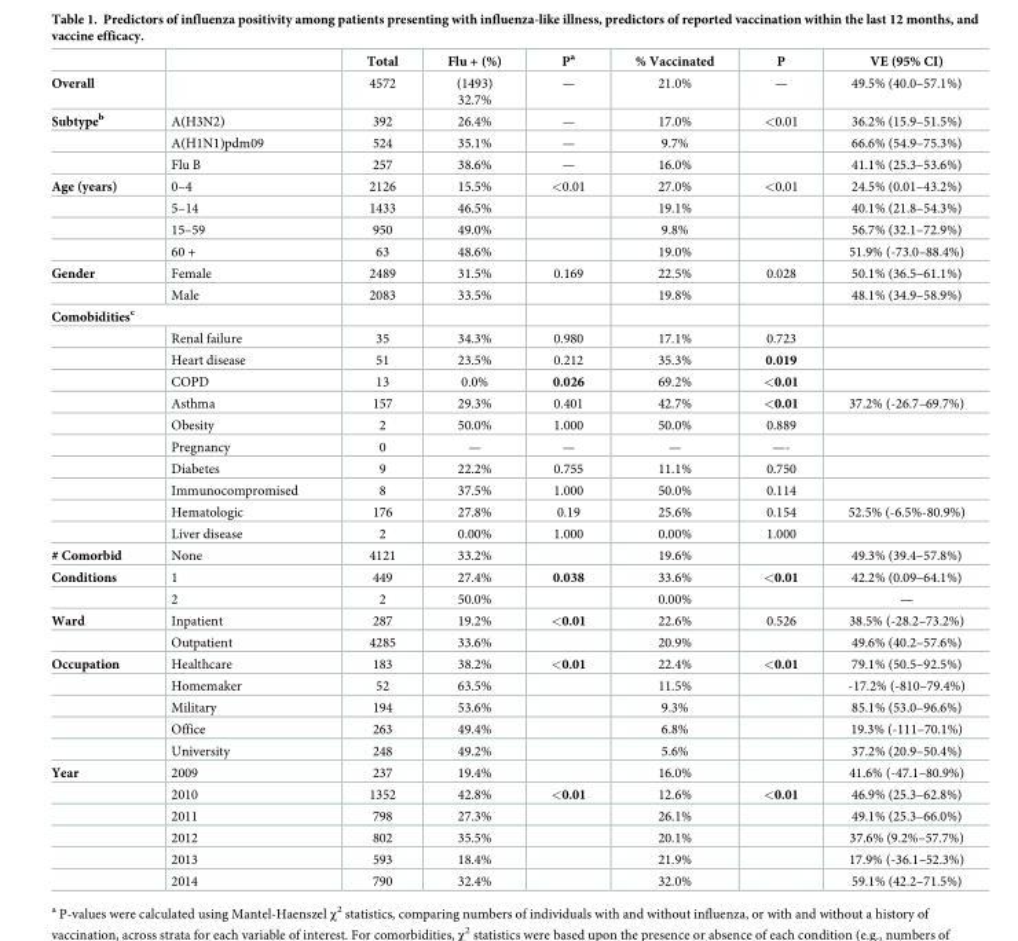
<table><thead><tr><td></td><td></td><td>Total</td><td>Flu + (%)</td><td>P<sup>a</sup></td><td>% Vaccinated</td><td>P</td><td>VE (95% CI)</td></tr></thead><tbody><tr><td>Overall</td><td></td><td>4572</td><td>(1493) 32.7%</td><td>—</td><td>21.0%</td><td>—</td><td>49.5% (40.0–57.1%)</td></tr><tr><td rowspan="3">Subtype<sup>b</sup></td><td>A(H3N2)</td><td>392</td><td>26.4%</td><td>—</td><td>17.0%</td><td>&lt;0.01</td><td>36.2% (15.9–51.5%)</td></tr><tr><td>A(H1N1)pdm09</td><td>524</td><td>35.1%</td><td>—</td><td>9.7%</td><td></td><td>66.6% (54.9–75.3%)</td></tr><tr><td>Flu B</td><td>257</td><td>38.6%</td><td>—</td><td>16.0%</td><td></td><td>41.1% (25.3–53.6%)</td></tr><tr><td rowspan="4">Age (years)</td><td>0–4</td><td>2126</td><td>15.5%</td><td>&lt;0.01</td><td>27.0%</td><td>&lt;0.01</td><td>24.5% (0.01–43.2%)</td></tr><tr><td>5–14</td><td>1433</td><td>46.5%</td><td></td><td>19.1%</td><td></td><td>40.1% (21.8–54.3%)</td></tr><tr><td>15–59</td><td>950</td><td>49.0%</td><td></td><td>9.8%</td><td></td><td>56.7% (32.1–72.9%)</td></tr><tr><td>60 +</td><td>63</td><td>48.6%</td><td></td><td>19.0%</td><td></td><td>51.9% (-73.0–88.4%)</td></tr><tr><td rowspan="2">Gender</td><td>Female</td><td>2489</td><td>31.5%</td><td>0.169</td><td>22.5%</td><td>0.028</td><td>50.1% (36.5–61.1%)</td></tr><tr><td>Male</td><td>2083</td><td>33.5%</td><td></td><td>19.8%</td><td></td><td>48.1% (34.9–58.9%)</td></tr><tr><td colspan="8">Comobidities<sup>c</sup></td></tr><tr><td></td><td>Renal failure</td><td>35</td><td>34.3%</td><td>0.980</td><td>17.1%</td><td>0.723</td><td></td></tr><tr><td></td><td>Heart disease</td><td>51</td><td>23.5%</td><td>0.212</td><td>35.3%</td><td>0.019</td><td></td></tr><tr><td></td><td>COPD</td><td>13</td><td>0.0%</td><td>0.026</td><td>69.2%</td><td>&lt;0.01</td><td></td></tr><tr><td></td><td>Asthma</td><td>157</td><td>29.3%</td><td>0.401</td><td>42.7%</td><td>&lt;0.01</td><td>37.2% (-26.7–69.7%)</td></tr><tr><td></td><td>Obesity</td><td>2</td><td>50.0%</td><td>1.000</td><td>50.0%</td><td>0.889</td><td></td></tr><tr><td></td><td>Pregnancy</td><td>0</td><td>—</td><td>—</td><td>—</td><td>—-</td><td></td></tr><tr><td></td><td>Diabetes</td><td>9</td><td>22.2%</td><td>0.755</td><td>11.1%</td><td>0.750</td><td></td></tr><tr><td></td><td>Immunocompromised</td><td>8</td><td>37.5%</td><td>1.000</td><td>50.0%</td><td>0.114</td><td></td></tr><tr><td></td><td>Hematologic</td><td>176</td><td>27.8%</td><td>0.19</td><td>25.6%</td><td>0.154</td><td>52.5% (-6.5%-80.9%)</td></tr><tr><td></td><td>Liver disease</td><td>2</td><td>0.00%</td><td>1.000</td><td>0.00%</td><td>1.000</td><td></td></tr><tr><td># Comorbid</td><td>None</td><td>4121</td><td>33.2%</td><td></td><td>19.6%</td><td></td><td>49.3% (39.4–57.8%)</td></tr><tr><td rowspan="2">Conditions</td><td>1</td><td>449</td><td>27.4%</td><td>0.038</td><td>33.6%</td><td>&lt;0.01</td><td>42.2% (0.09–64.1%)</td></tr><tr><td>2</td><td>2</td><td>50.0%</td><td></td><td>0.00%</td><td></td><td>—</td></tr><tr><td rowspan="2">Ward</td><td>Inpatient</td><td>287</td><td>19.2%</td><td>&lt;0.01</td><td>22.6%</td><td>0.526</td><td>38.5% (-28.2–73.2%)</td></tr><tr><td>Outpatient</td><td>4285</td><td>33.6%</td><td></td><td>20.9%</td><td></td><td>49.6% (40.2–57.6%)</td></tr><tr><td rowspan="5">Occupation</td><td>Healthcare</td><td>183</td><td>38.2%</td><td>&lt;0.01</td><td>22.4%</td><td>&lt;0.01</td><td>79.1% (50.5–92.5%)</td></tr><tr><td>Homemaker</td><td>52</td><td>63.5%</td><td></td><td>11.5%</td><td></td><td>-17.2% (-810–79.4%)</td></tr><tr><td>Military</td><td>194</td><td>53.6%</td><td></td><td>9.3%</td><td></td><td>85.1% (53.0–96.6%)</td></tr><tr><td>Office</td><td>263</td><td>49.4%</td><td></td><td>6.8%</td><td></td><td>19.3% (-111–70.1%)</td></tr><tr><td>University</td><td>248</td><td>49.2%</td><td></td><td>5.6%</td><td></td><td>37.2% (20.9–50.4%)</td></tr><tr><td rowspan="6">Year</td><td>2009</td><td>237</td><td>19.4%</td><td></td><td>16.0%</td><td></td><td>41.6% (-47.1–80.9%)</td></tr><tr><td>2010</td><td>1352</td><td>42.8%</td><td>&lt;0.01</td><td>12.6%</td><td>&lt;0.01</td><td>46.9% (25.3–62.8%)</td></tr><tr><td>2011</td><td>798</td><td>27.3%</td><td></td><td>26.1%</td><td></td><td>49.1% (25.3–66.0%)</td></tr><tr><td>2012</td><td>802</td><td>35.5%</td><td></td><td>20.1%</td><td></td><td>37.6% (9.2%–57.7%)</td></tr><tr><td>2013</td><td>593</td><td>18.4%</td><td></td><td>21.9%</td><td></td><td>17.9% (-36.1–52.3%)</td></tr><tr><td>2014</td><td>790</td><td>32.4%</td><td></td><td>32.0%</td><td></td><td>59.1% (42.2–71.5%)</td></tr></tbody></table>